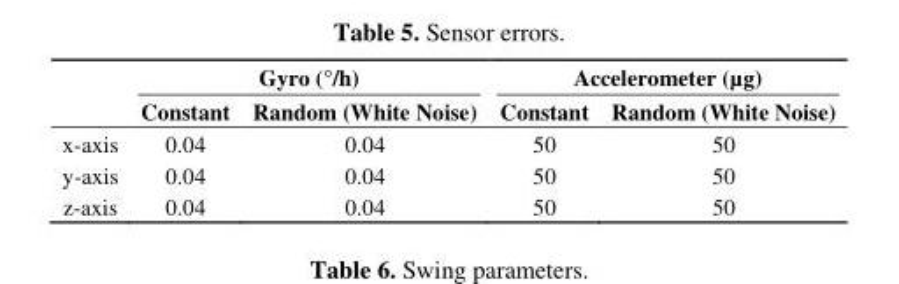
<table><thead><tr><td rowspan="2"></td><td colspan="2">Gyro (°/h)</td><td colspan="2">Accelerometer (µg)</td></tr><tr><td>Constant</td><td>Random (White Noise)</td><td>Constant</td><td>Random (White Noise)</td></tr></thead><tbody><tr><td>x-axis</td><td>0.04</td><td>0.04</td><td>50</td><td>50</td></tr><tr><td>y-axis</td><td>0.04</td><td>0.04</td><td>50</td><td>50</td></tr><tr><td>z-axis</td><td>0.04</td><td>0.04</td><td>50</td><td>50</td></tr></tbody></table>